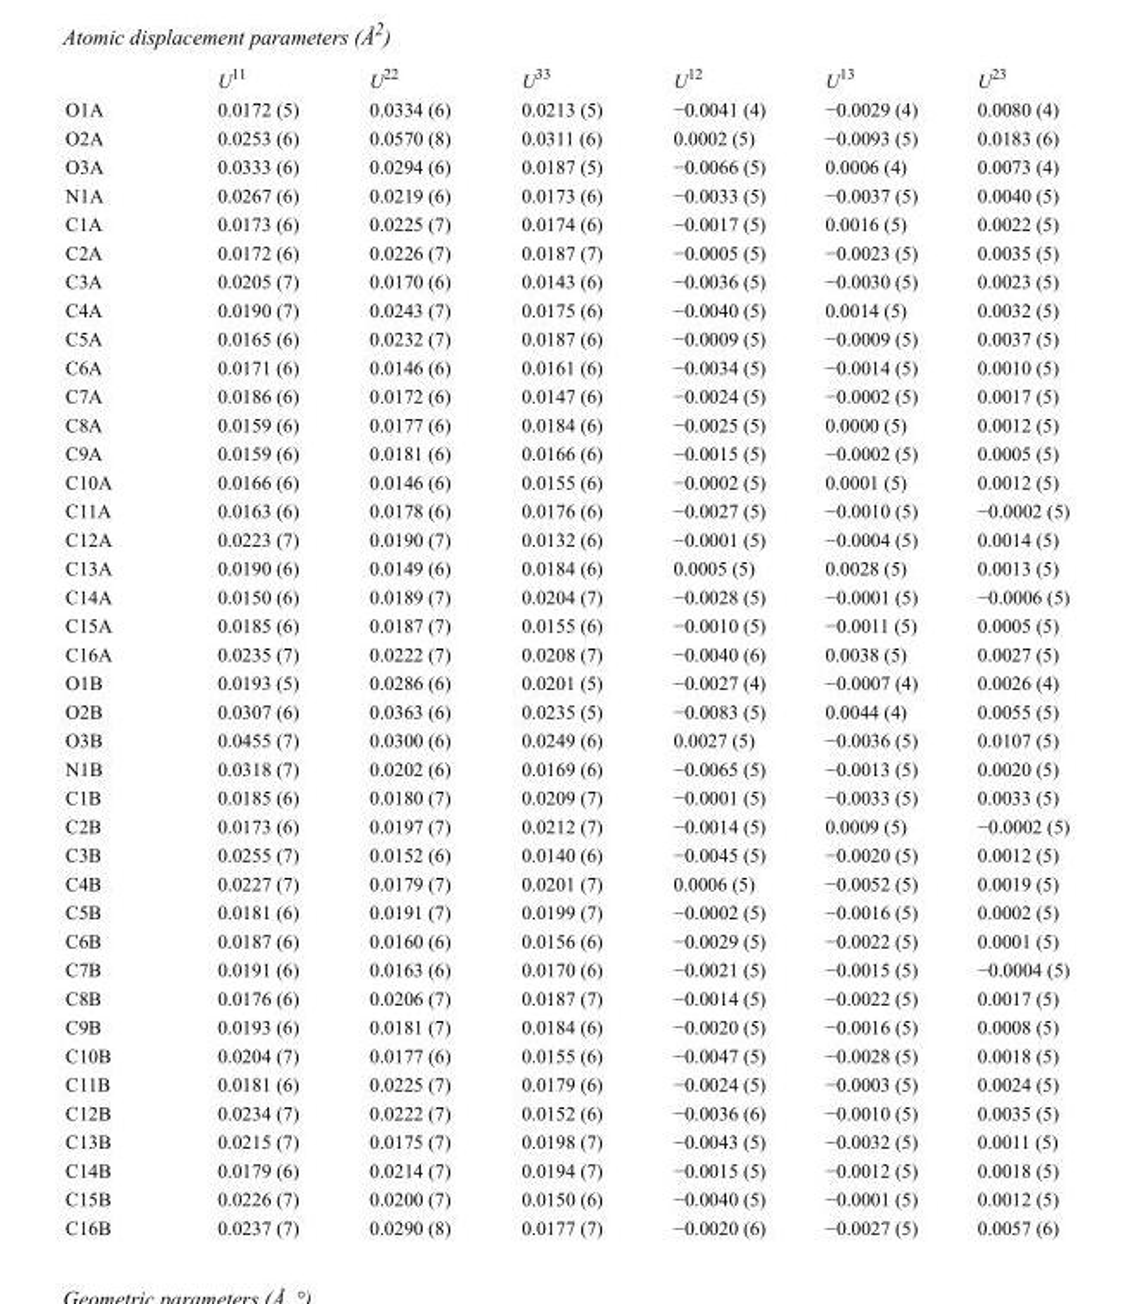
<table><thead><tr><td></td><td>U<sup>11</sup></td><td>U<sup>22</sup></td><td>U<sup>33</sup></td><td>U<sup>12</sup></td><td>U<sup>13</sup></td><td>U<sup>23</sup></td></tr></thead><tbody><tr><td>O1A</td><td>0.0172 (5)</td><td>0.0334 (6)</td><td>0.0213 (5)</td><td>−0.0041 (4)</td><td>−0.0029 (4)</td><td>0.0080 (4)</td></tr><tr><td>O2A</td><td>0.0253 (6)</td><td>0.0570 (8)</td><td>0.0311 (6)</td><td>0.0002 (5)</td><td>−0.0093 (5)</td><td>0.0183 (6)</td></tr><tr><td>O3A</td><td>0.0333 (6)</td><td>0.0294 (6)</td><td>0.0187 (5)</td><td>−0.0066 (5)</td><td>0.0006 (4)</td><td>0.0073 (4)</td></tr><tr><td>N1A</td><td>0.0267 (6)</td><td>0.0219 (6)</td><td>0.0173 (6)</td><td>−0.0033 (5)</td><td>−0.0037 (5)</td><td>0.0040 (5)</td></tr><tr><td>C1A</td><td>0.0173 (6)</td><td>0.0225 (7)</td><td>0.0174 (6)</td><td>−0.0017 (5)</td><td>0.0016 (5)</td><td>0.0022 (5)</td></tr><tr><td>C2A</td><td>0.0172 (6)</td><td>0.0226 (7)</td><td>0.0187 (7)</td><td>−0.0005 (5)</td><td>−0.0023 (5)</td><td>0.0035 (5)</td></tr><tr><td>C3A</td><td>0.0205 (7)</td><td>0.0170 (6)</td><td>0.0143 (6)</td><td>−0.0036 (5)</td><td>−0.0030 (5)</td><td>0.0023 (5)</td></tr><tr><td>C4A</td><td>0.0190 (7)</td><td>0.0243 (7)</td><td>0.0175 (6)</td><td>−0.0040 (5)</td><td>0.0014 (5)</td><td>0.0032 (5)</td></tr><tr><td>C5A</td><td>0.0165 (6)</td><td>0.0232 (7)</td><td>0.0187 (6)</td><td>−0.0009 (5)</td><td>−0.0009 (5)</td><td>0.0037 (5)</td></tr><tr><td>C6A</td><td>0.0171 (6)</td><td>0.0146 (6)</td><td>0.0161 (6)</td><td>−0.0034 (5)</td><td>−0.0014 (5)</td><td>0.0010 (5)</td></tr><tr><td>C7A</td><td>0.0186 (6)</td><td>0.0172 (6)</td><td>0.0147 (6)</td><td>−0.0024 (5)</td><td>−0.0002 (5)</td><td>0.0017 (5)</td></tr><tr><td>C8A</td><td>0.0159 (6)</td><td>0.0177 (6)</td><td>0.0184 (6)</td><td>−0.0025 (5)</td><td>0.0000 (5)</td><td>0.0012 (5)</td></tr><tr><td>C9A</td><td>0.0159 (6)</td><td>0.0181 (6)</td><td>0.0166 (6)</td><td>−0.0015 (5)</td><td>−0.0002 (5)</td><td>0.0005 (5)</td></tr><tr><td>C10A</td><td>0.0166 (6)</td><td>0.0146 (6)</td><td>0.0155 (6)</td><td>−0.0002 (5)</td><td>0.0001 (5)</td><td>0.0012 (5)</td></tr><tr><td>C11A</td><td>0.0163 (6)</td><td>0.0178 (6)</td><td>0.0176 (6)</td><td>−0.0027 (5)</td><td>−0.0010 (5)</td><td>−0.0002 (5)</td></tr><tr><td>C12A</td><td>0.0223 (7)</td><td>0.0190 (7)</td><td>0.0132 (6)</td><td>−0.0001 (5)</td><td>−0.0004 (5)</td><td>0.0014 (5)</td></tr><tr><td>C13A</td><td>0.0190 (6)</td><td>0.0149 (6)</td><td>0.0184 (6)</td><td>0.0005 (5)</td><td>0.0028 (5)</td><td>0.0013 (5)</td></tr><tr><td>C14A</td><td>0.0150 (6)</td><td>0.0189 (7)</td><td>0.0204 (7)</td><td>−0.0028 (5)</td><td>−0.0001 (5)</td><td>−0.0006 (5)</td></tr><tr><td>C15A</td><td>0.0185 (6)</td><td>0.0187 (7)</td><td>0.0155 (6)</td><td>−0.0010 (5)</td><td>−0.0011 (5)</td><td>0.0005 (5)</td></tr><tr><td>C16A</td><td>0.0235 (7)</td><td>0.0222 (7)</td><td>0.0208 (7)</td><td>−0.0040 (6)</td><td>0.0038 (5)</td><td>0.0027 (5)</td></tr><tr><td>O1B</td><td>0.0193 (5)</td><td>0.0286 (6)</td><td>0.0201 (5)</td><td>−0.0027 (4)</td><td>−0.0007 (4)</td><td>0.0026 (4)</td></tr><tr><td>O2B</td><td>0.0307 (6)</td><td>0.0363 (6)</td><td>0.0235 (5)</td><td>−0.0083 (5)</td><td>0.0044 (4)</td><td>0.0055 (5)</td></tr><tr><td>O3B</td><td>0.0455 (7)</td><td>0.0300 (6)</td><td>0.0249 (6)</td><td>0.0027 (5)</td><td>−0.0036 (5)</td><td>0.0107 (5)</td></tr><tr><td>N1B</td><td>0.0318 (7)</td><td>0.0202 (6)</td><td>0.0169 (6)</td><td>−0.0065 (5)</td><td>−0.0013 (5)</td><td>0.0020 (5)</td></tr><tr><td>C1B</td><td>0.0185 (6)</td><td>0.0180 (7)</td><td>0.0209 (7)</td><td>−0.0001 (5)</td><td>−0.0033 (5)</td><td>0.0033 (5)</td></tr><tr><td>C2B</td><td>0.0173 (6)</td><td>0.0197 (7)</td><td>0.0212 (7)</td><td>−0.0014 (5)</td><td>0.0009 (5)</td><td>−0.0002 (5)</td></tr><tr><td>C3B</td><td>0.0255 (7)</td><td>0.0152 (6)</td><td>0.0140 (6)</td><td>−0.0045 (5)</td><td>−0.0020 (5)</td><td>0.0012 (5)</td></tr><tr><td>C4B</td><td>0.0227 (7)</td><td>0.0179 (7)</td><td>0.0201 (7)</td><td>0.0006 (5)</td><td>−0.0052 (5)</td><td>0.0019 (5)</td></tr><tr><td>C5B</td><td>0.0181 (6)</td><td>0.0191 (7)</td><td>0.0199 (7)</td><td>−0.0002 (5)</td><td>−0.0016 (5)</td><td>0.0002 (5)</td></tr><tr><td>C6B</td><td>0.0187 (6)</td><td>0.0160 (6)</td><td>0.0156 (6)</td><td>−0.0029 (5)</td><td>−0.0022 (5)</td><td>0.0001 (5)</td></tr><tr><td>C7B</td><td>0.0191 (6)</td><td>0.0163 (6)</td><td>0.0170 (6)</td><td>−0.0021 (5)</td><td>−0.0015 (5)</td><td>−0.0004 (5)</td></tr><tr><td>C8B</td><td>0.0176 (6)</td><td>0.0206 (7)</td><td>0.0187 (7)</td><td>−0.0014 (5)</td><td>−0.0022 (5)</td><td>0.0017 (5)</td></tr><tr><td>C9B</td><td>0.0193 (6)</td><td>0.0181 (7)</td><td>0.0184 (6)</td><td>−0.0020 (5)</td><td>−0.0016 (5)</td><td>0.0008 (5)</td></tr><tr><td>C10B</td><td>0.0204 (7)</td><td>0.0177 (6)</td><td>0.0155 (6)</td><td>−0.0047 (5)</td><td>−0.0028 (5)</td><td>0.0018 (5)</td></tr><tr><td>C11B</td><td>0.0181 (6)</td><td>0.0225 (7)</td><td>0.0179 (6)</td><td>−0.0024 (5)</td><td>−0.0003 (5)</td><td>0.0024 (5)</td></tr><tr><td>C12B</td><td>0.0234 (7)</td><td>0.0222 (7)</td><td>0.0152 (6)</td><td>−0.0036 (6)</td><td>−0.0010 (5)</td><td>0.0035 (5)</td></tr><tr><td>C13B</td><td>0.0215 (7)</td><td>0.0175 (7)</td><td>0.0198 (7)</td><td>−0.0043 (5)</td><td>−0.0032 (5)</td><td>0.0011 (5)</td></tr><tr><td>C14B</td><td>0.0179 (6)</td><td>0.0214 (7)</td><td>0.0194 (7)</td><td>−0.0015 (5)</td><td>−0.0012 (5)</td><td>0.0018 (5)</td></tr><tr><td>C15B</td><td>0.0226 (7)</td><td>0.0200 (7)</td><td>0.0150 (6)</td><td>−0.0040 (5)</td><td>−0.0001 (5)</td><td>0.0012 (5)</td></tr><tr><td>C16B</td><td>0.0237 (7)</td><td>0.0290 (8)</td><td>0.0177 (7)</td><td>−0.0020 (6)</td><td>−0.0027 (5)</td><td>0.0057 (6)</td></tr></tbody></table>